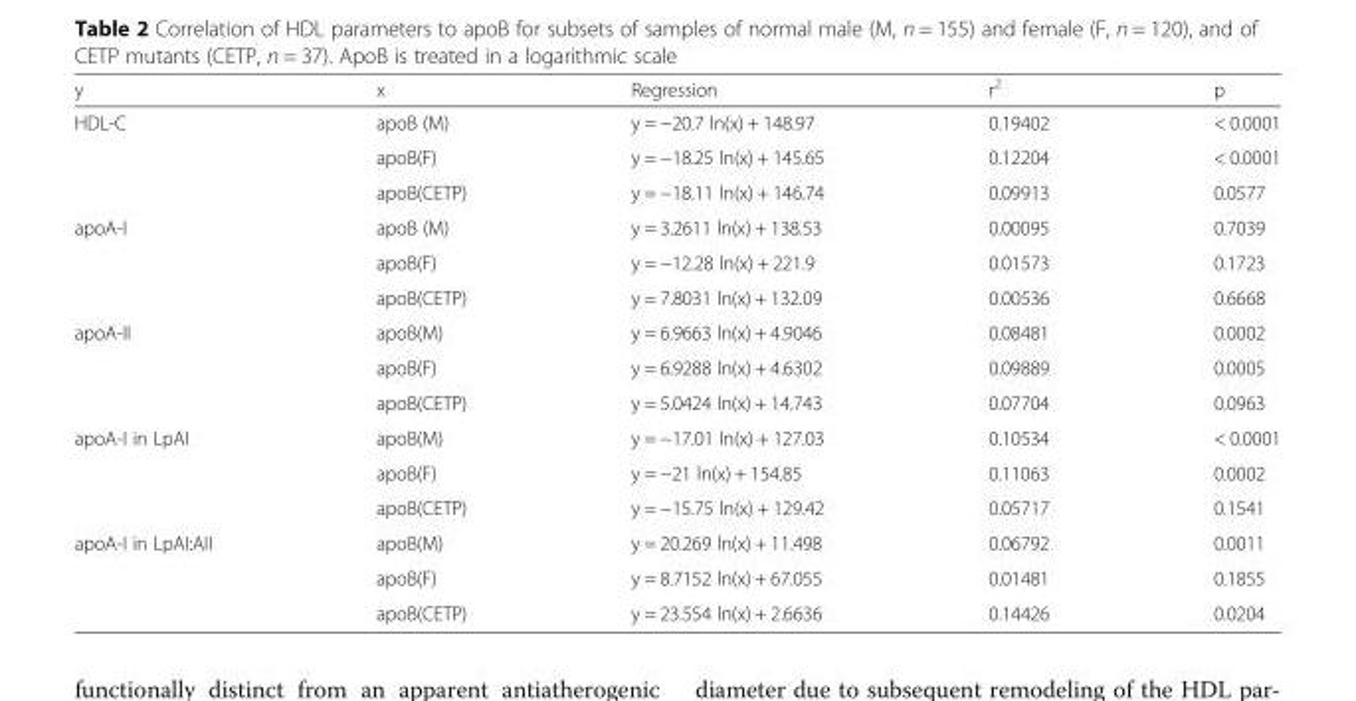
<table><thead><tr><td>y</td><td>x</td><td>Regression</td><td>r<sup>2</sup></td><td>p</td></tr></thead><tbody><tr><td rowspan="3">HDL-C</td><td>apoB (M)</td><td>y = −20.7 ln(x) + 148.97</td><td>0.19402</td><td>&lt; 0.0001</td></tr><tr><td>apoB(F)</td><td>y = −18.25 ln(x) + 145.65</td><td>0.12204</td><td>&lt; 0.0001</td></tr><tr><td>apoB(CETP)</td><td>y = −18.11 ln(x) + 146.74</td><td>0.09913</td><td>0.0577</td></tr><tr><td rowspan="3">apoA-I</td><td>apoB (M)</td><td>y = 3.2611 ln(x) + 138.53</td><td>0.00095</td><td>0.7039</td></tr><tr><td>apoB(F)</td><td>y = −12.28 ln(x) + 221.9</td><td>0.01573</td><td>0.1723</td></tr><tr><td>apoB(CETP)</td><td>y = 7.8031 ln(x) + 132.09</td><td>0.00536</td><td>0.6668</td></tr><tr><td rowspan="3">apoA-II</td><td>apoB(M)</td><td>y = 6.9663 ln(x) + 4.9046</td><td>0.08481</td><td>0.0002</td></tr><tr><td>apoB(F)</td><td>y = 6.9288 ln(x) + 4.6302</td><td>0.09889</td><td>0.0005</td></tr><tr><td>apoB(CETP)</td><td>y = 5.0424 ln(x) + 14.743</td><td>0.07704</td><td>0.0963</td></tr><tr><td rowspan="3">apoA-I in LpAI</td><td>apoB(M)</td><td>y = −17.01 ln(x) + 127.03</td><td>0.10534</td><td>&lt; 0.0001</td></tr><tr><td>apoB(F)</td><td>y = −21 ln(x) + 154.85</td><td>0.11063</td><td>0.0002</td></tr><tr><td>apoB(CETP)</td><td>y = −15.75 ln(x) + 129.42</td><td>0.05717</td><td>0.1541</td></tr><tr><td rowspan="3">apoA-I in LpAI:AII</td><td>apoB(M)</td><td>y = 20.269 ln(x) + 11.498</td><td>0.06792</td><td>0.0011</td></tr><tr><td>apoB(F)</td><td>y = 8.7152 ln(x) + 67.055</td><td>0.01481</td><td>0.1855</td></tr><tr><td>apoB(CETP)</td><td>y = 23.554 ln(x) + 2.6636</td><td>0.14426</td><td>0.0204</td></tr></tbody></table>